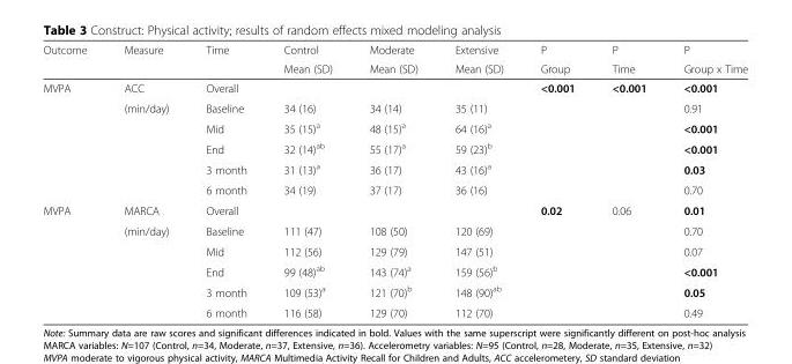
<table><thead><tr><td rowspan="2">Outcome</td><td rowspan="2">Measure</td><td rowspan="2">Time</td><td rowspan="2">Control Mean (SD)</td><td rowspan="2">Moderate Mean (SD)</td><td rowspan="2">Extensive Mean (SD)</td><td rowspan="2">P Group</td><td rowspan="2">P Time</td><td rowspan="2">P Group x Time</td></tr><tr></tr></thead><tbody><tr><td rowspan="6">MVPA</td><td>ACC</td><td>Overall</td><td></td><td></td><td></td><td>&lt;0.001</td><td>&lt;0.001</td><td>&lt;0.001</td></tr><tr><td>(min/day)</td><td>Baseline</td><td>34 (16)</td><td>34 (14)</td><td>35 (11)</td><td></td><td></td><td>0.91</td></tr><tr><td></td><td>Mid</td><td>35 (15)<sup>a</sup></td><td>48 (15)<sup>a</sup></td><td>64 (16)<sup>a</sup></td><td></td><td></td><td>&lt;0.001</td></tr><tr><td></td><td>End</td><td>32 (14)<sup>ab</sup></td><td>55 (17)<sup>a</sup></td><td>59 (23)<sup>b</sup></td><td></td><td></td><td>&lt;0.001</td></tr><tr><td></td><td>3 month</td><td>31 (13)<sup>a</sup></td><td>36 (17)</td><td>43 (16)<sup>a</sup></td><td></td><td></td><td>0.03</td></tr><tr><td></td><td>6 month</td><td>34 (19)</td><td>37 (17)</td><td>36 (16)</td><td></td><td></td><td>0.70</td></tr><tr><td rowspan="6">MVPA</td><td>MARCA</td><td>Overall</td><td></td><td></td><td></td><td>0.02</td><td>0.06</td><td>0.01</td></tr><tr><td>(min/day)</td><td>Baseline</td><td>111 (47)</td><td>108 (50)</td><td>120 (69)</td><td></td><td></td><td>0.70</td></tr><tr><td></td><td>Mid</td><td>112 (56)</td><td>129 (79)</td><td>147 (51)</td><td></td><td></td><td>0.07</td></tr><tr><td></td><td>End</td><td>99 (48)<sup>ab</sup></td><td>143 (74)<sup>a</sup></td><td>159 (56)<sup>b</sup></td><td></td><td></td><td>&lt;0.001</td></tr><tr><td></td><td>3 month</td><td>109 (53)<sup>a</sup></td><td>121 (70)<sup>b</sup></td><td>148 (90)<sup>ab</sup></td><td></td><td></td><td>0.05</td></tr><tr><td></td><td>6 month</td><td>116 (58)</td><td>129 (70)</td><td>112 (70)</td><td></td><td></td><td>0.49</td></tr></tbody></table>